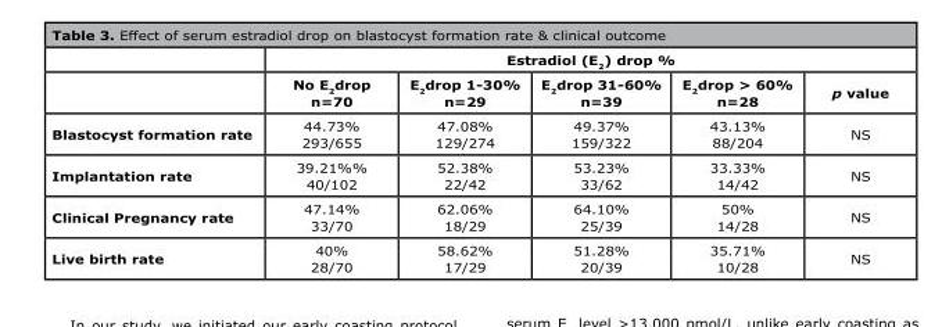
<table><thead><tr><td rowspan="2"></td><td colspan="5">Estradiol (E<sub>2</sub>) drop %</td></tr><tr><td>No E<sub>2</sub>drop n=70</td><td>E<sub>2</sub>drop 1-30% n=29</td><td>E<sub>2</sub>drop 31-60% n=39</td><td>E<sub>2</sub>drop &gt; 60% n=28</td><td>p value</td></tr></thead><tbody><tr><td>Blastocyst formation rate</td><td>44.73% 293/655</td><td>47.08% 129/274</td><td>49.37% 159/322</td><td>43.13% 88/204</td><td>NS</td></tr><tr><td>Implantation rate</td><td>39.21%% 40/102</td><td>52.38% 22/42</td><td>53.23% 33/62</td><td>33.33% 14/42</td><td>NS</td></tr><tr><td>Clinical Pregnancy rate</td><td>47.14% 33/70</td><td>62.06% 18/29</td><td>64.10% 25/39</td><td>50% 14/28</td><td>NS</td></tr><tr><td>Live birth rate</td><td>40% 28/70</td><td>58.62% 17/29</td><td>51.28% 20/39</td><td>35.71% 10/28</td><td>NS</td></tr></tbody></table>